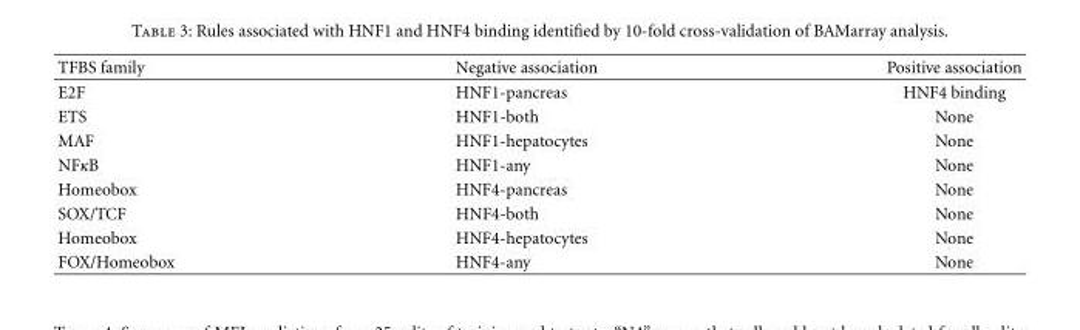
<table><thead><tr><td>TFBS family</td><td>Negative association</td><td>Positive association</td></tr></thead><tbody><tr><td>E2F</td><td>HNF1-pancreas</td><td>HNF4 binding</td></tr><tr><td>ETS</td><td>HNF1-both</td><td>None</td></tr><tr><td>MAF</td><td>HNF1-hepatocytes</td><td>None</td></tr><tr><td>NFκB</td><td>HNF1-any</td><td>None</td></tr><tr><td>Homeobox</td><td>HNF4-pancreas</td><td>None</td></tr><tr><td>SOX/TCF</td><td>HNF4-both</td><td>None</td></tr><tr><td>Homeobox</td><td>HNF4-hepatocytes</td><td>None</td></tr><tr><td>FOX/Homeobox</td><td>HNF4-any</td><td>None</td></tr></tbody></table>